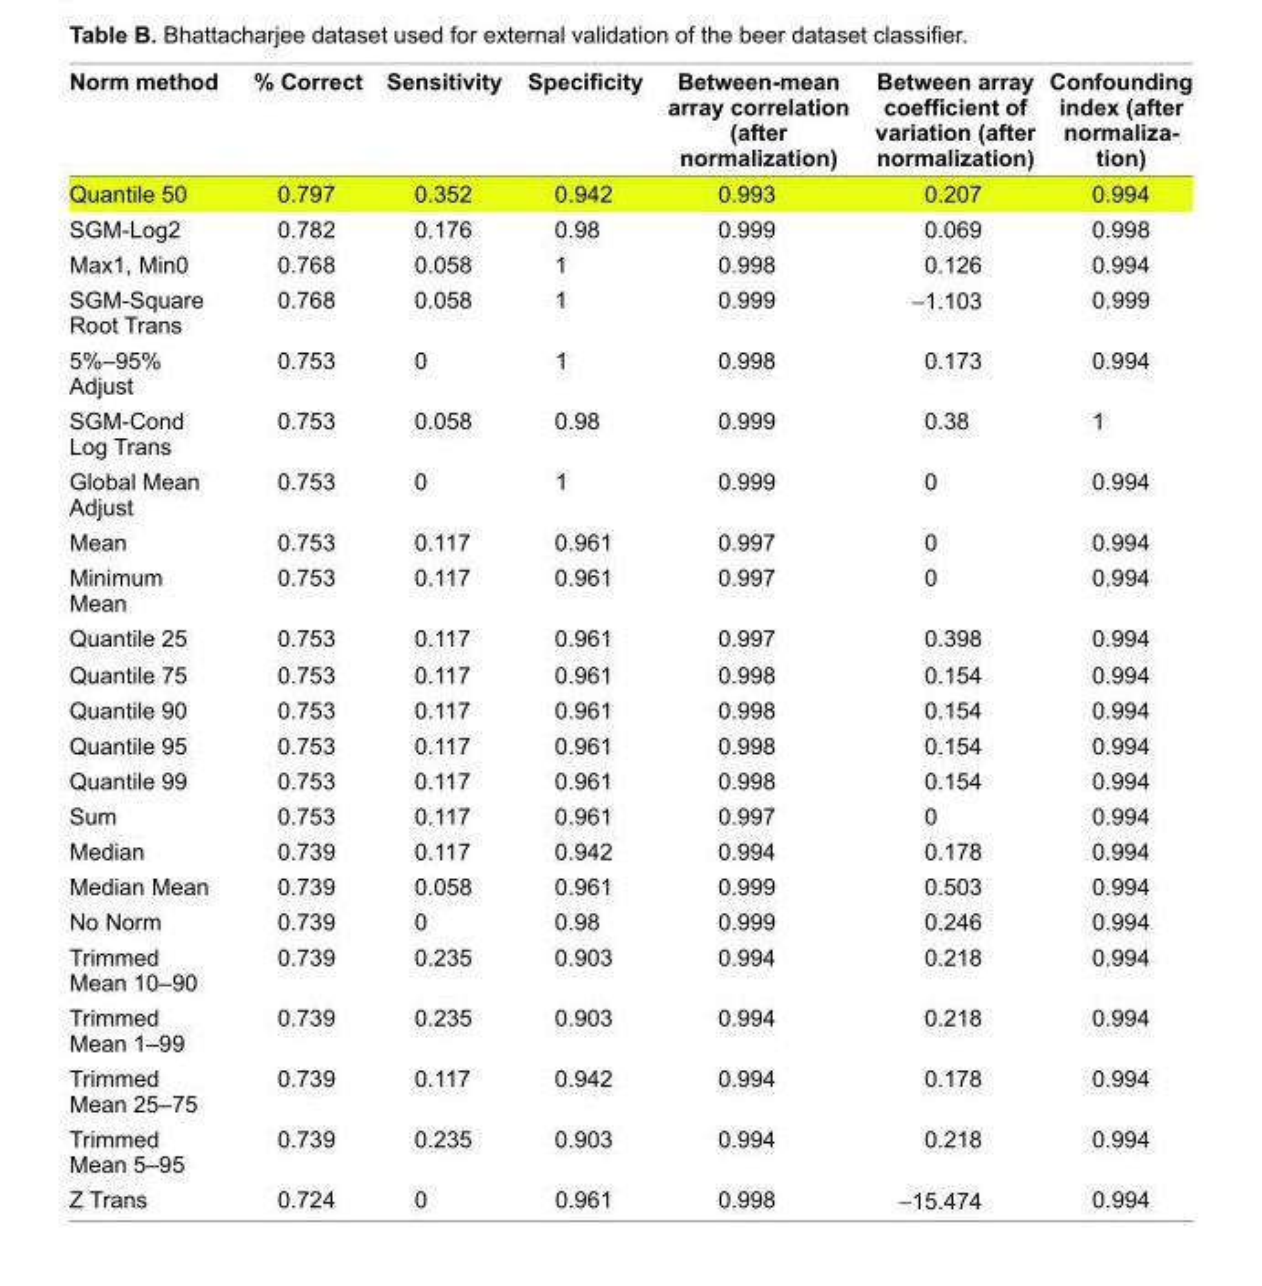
<table><thead><tr><td>Norm method</td><td>% Correct</td><td>Sensitivity</td><td>Specifi city</td><td>Between-mean array correlation (after normalization)</td><td>Between array coeffi cient of variation (after normalization)</td><td>Confounding index (after normaliza- tion)</td></tr></thead><tbody><tr><td>Quantile 50</td><td>0.797</td><td>0.352</td><td>0.942</td><td>0.993</td><td>0.207</td><td>0.994</td></tr><tr><td>SGM-Log2</td><td>0.782</td><td>0.176</td><td>0.98</td><td>0.999</td><td>0.069</td><td>0.998</td></tr><tr><td>Max1, Min0</td><td>0.768</td><td>0.058</td><td>1</td><td>0.998</td><td>0.126</td><td>0.994</td></tr><tr><td>SGM-Square Root Trans</td><td>0.768</td><td>0.058</td><td>1</td><td>0.999</td><td>−1.103</td><td>0.999</td></tr><tr><td>5%–95% Adjust</td><td>0.753</td><td>0</td><td>1</td><td>0.998</td><td>0.173</td><td>0.994</td></tr><tr><td>SGM-Cond Log Trans</td><td>0.753</td><td>0.058</td><td>0.98</td><td>0.999</td><td>0.38</td><td>1</td></tr><tr><td>Global Mean Adjust</td><td>0.753</td><td>0</td><td>1</td><td>0.999</td><td>0</td><td>0.994</td></tr><tr><td>Mean</td><td>0.753</td><td>0.117</td><td>0.961</td><td>0.997</td><td>0</td><td>0.994</td></tr><tr><td>Minimum Mean</td><td>0.753</td><td>0.117</td><td>0.961</td><td>0.997</td><td>0</td><td>0.994</td></tr><tr><td>Quantile 25</td><td>0.753</td><td>0.117</td><td>0.961</td><td>0.997</td><td>0.398</td><td>0.994</td></tr><tr><td>Quantile 75</td><td>0.753</td><td>0.117</td><td>0.961</td><td>0.998</td><td>0.154</td><td>0.994</td></tr><tr><td>Quantile 90</td><td>0.753</td><td>0.117</td><td>0.961</td><td>0.998</td><td>0.154</td><td>0.994</td></tr><tr><td>Quantile 95</td><td>0.753</td><td>0.117</td><td>0.961</td><td>0.998</td><td>0.154</td><td>0.994</td></tr><tr><td>Quantile 99</td><td>0.753</td><td>0.117</td><td>0.961</td><td>0.998</td><td>0.154</td><td>0.994</td></tr><tr><td>Sum</td><td>0.753</td><td>0.117</td><td>0.961</td><td>0.997</td><td>0</td><td>0.994</td></tr><tr><td>Median</td><td>0.739</td><td>0.117</td><td>0.942</td><td>0.994</td><td>0.178</td><td>0.994</td></tr><tr><td>Median Mean</td><td>0.739</td><td>0.058</td><td>0.961</td><td>0.999</td><td>0.503</td><td>0.994</td></tr><tr><td>No Norm</td><td>0.739</td><td>0</td><td>0.98</td><td>0.999</td><td>0.246</td><td>0.994</td></tr><tr><td>Trimmed Mean 10–90</td><td>0.739</td><td>0.235</td><td>0.903</td><td>0.994</td><td>0.218</td><td>0.994</td></tr><tr><td>Trimmed Mean 1–99</td><td>0.739</td><td>0.235</td><td>0.903</td><td>0.994</td><td>0.218</td><td>0.994</td></tr><tr><td>Trimmed Mean 25–75</td><td>0.739</td><td>0.117</td><td>0.942</td><td>0.994</td><td>0.178</td><td>0.994</td></tr><tr><td>Trimmed Mean 5–95</td><td>0.739</td><td>0.235</td><td>0.903</td><td>0.994</td><td>0.218</td><td>0.994</td></tr><tr><td>Z Trans</td><td>0.724</td><td>0</td><td>0.961</td><td>0.998</td><td>−15.474</td><td>0.994</td></tr></tbody></table>